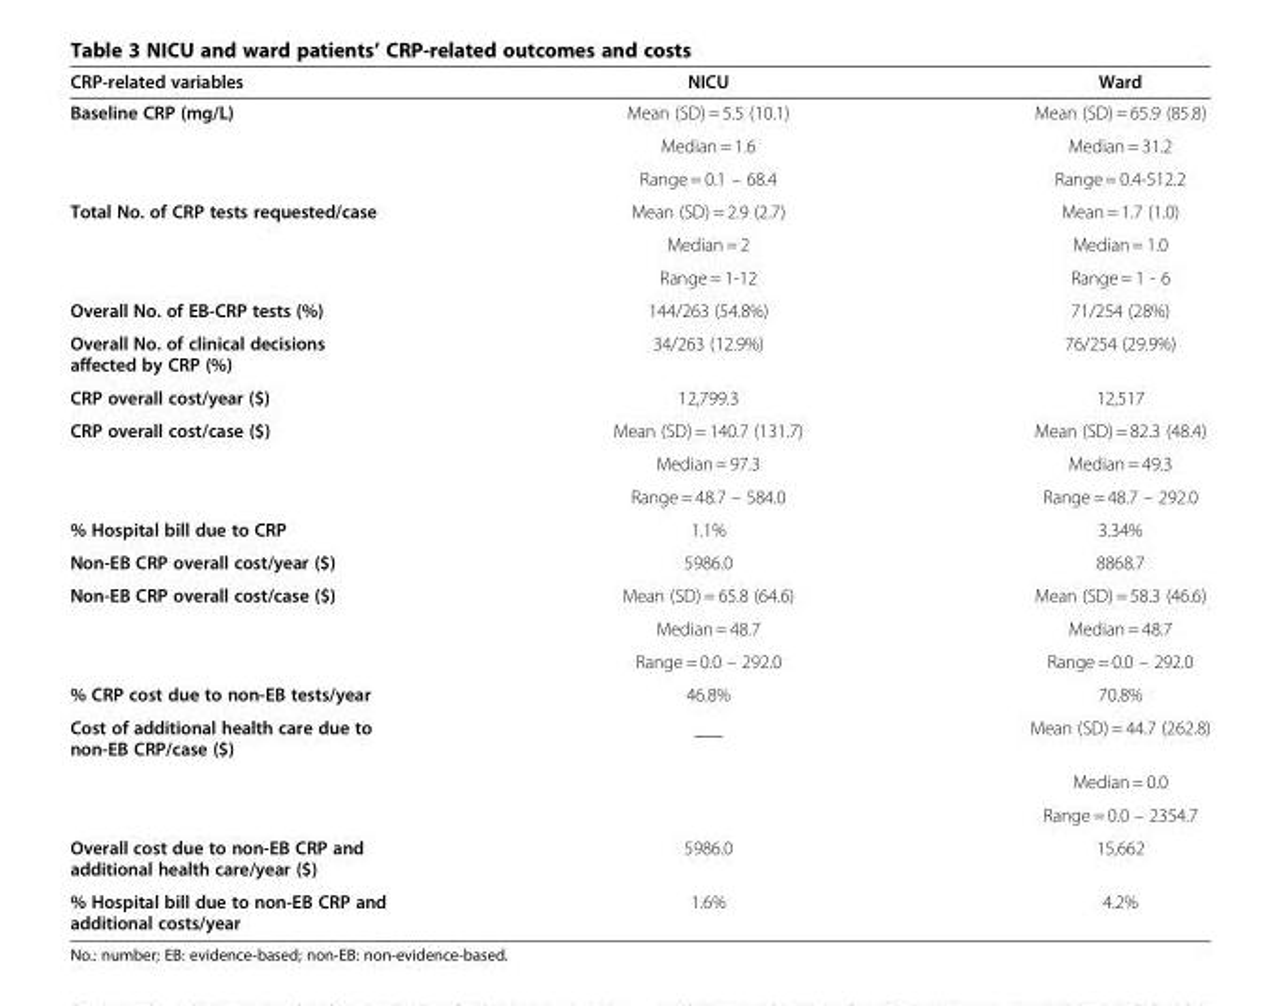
<table><thead><tr><td>CRP-related variables</td><td>NICU</td><td>Ward</td></tr></thead><tbody><tr><td rowspan="3">Baseline CRP (mg/L)</td><td>Mean (SD) = 5.5 (10.1)</td><td>Mean (SD) = 65.9 (85.8)</td></tr><tr><td>Median = 1.6</td><td>Median = 31.2</td></tr><tr><td>Range = 0.1 – 68.4</td><td>Range = 0.4-512.2</td></tr><tr><td rowspan="3">Total No. of CRP tests requested/case</td><td>Mean (SD) = 2.9 (2.7)</td><td>Mean = 1.7 (1.0)</td></tr><tr><td>Median = 2</td><td>Median = 1.0</td></tr><tr><td>Range = 1-12</td><td>Range = 1 - 6</td></tr><tr><td>Overall No. of EB-CRP tests (%)</td><td>144/263 (54.8%)</td><td>71/254 (28%)</td></tr><tr><td>Overall No. of clinical decisions affected by CRP (%)</td><td>34/263 (12.9%)</td><td>76/254 (29.9%)</td></tr><tr><td>CRP overall cost/year ($)</td><td>12,799.3</td><td>12,517</td></tr><tr><td rowspan="3">CRP overall cost/case ($)</td><td>Mean (SD) = 140.7 (131.7)</td><td>Mean (SD) = 82.3 (48.4)</td></tr><tr><td>Median = 97.3</td><td>Median = 49.3</td></tr><tr><td>Range = 48.7 – 584.0</td><td>Range = 48.7 – 292.0</td></tr><tr><td>% Hospital bill due to CRP</td><td>1.1%</td><td>3.34%</td></tr><tr><td>Non-EB CRP overall cost/year ($)</td><td>5986.0</td><td>8868.7</td></tr><tr><td rowspan="3">Non-EB CRP overall cost/case ($)</td><td>Mean (SD) = 65.8 (64.6)</td><td>Mean (SD) = 58.3 (46.6)</td></tr><tr><td>Median = 48.7</td><td>Median = 48.7</td></tr><tr><td>Range = 0.0 – 292.0</td><td>Range = 0.0 – 292.0</td></tr><tr><td>% CRP cost due to non-EB tests/year</td><td>46.8%</td><td>70.8%</td></tr><tr><td rowspan="3">Cost of additional health care due to non-EB CRP/case ($)</td><td>___</td><td>Mean (SD) = 44.7 (262.8)</td></tr><tr><td></td><td>Median = 0.0</td></tr><tr><td></td><td>Range = 0.0 – 2354.7</td></tr><tr><td>Overall cost due to non-EB CRP and additional health care/year ($)</td><td>5986.0</td><td>15,662</td></tr><tr><td>% Hospital bill due to non-EB CRP and additional costs/year</td><td>1.6%</td><td>4.2%</td></tr></tbody></table>